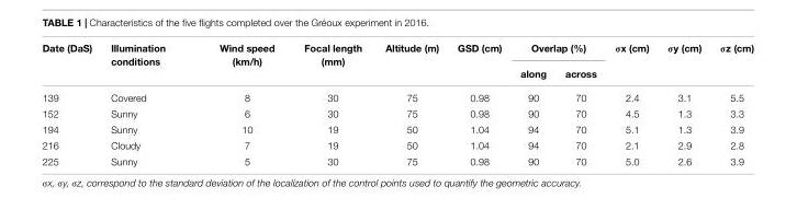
<table><thead><tr><td rowspan="2">Date (DaS)</td><td rowspan="2">Illumination conditions</td><td rowspan="2">Wind speed (km/h)</td><td rowspan="2">Focal length (mm)</td><td rowspan="2">Altitude (m)</td><td rowspan="2">GSD (cm)</td><td colspan="2">Overlap (%)</td><td rowspan="2">σx (cm)</td><td rowspan="2">σy (cm)</td><td rowspan="2">σz (cm)</td></tr><tr><td>along</td><td>across</td></tr></thead><tbody><tr><td>139</td><td>Covered</td><td>8</td><td>30</td><td>75</td><td>0.98</td><td>90</td><td>70</td><td>2.4</td><td>3.1</td><td>5.5</td></tr><tr><td>152</td><td>Sunny</td><td>6</td><td>30</td><td>75</td><td>0.98</td><td>90</td><td>70</td><td>4.5</td><td>1.3</td><td>3.3</td></tr><tr><td>194</td><td>Sunny</td><td>10</td><td>19</td><td>50</td><td>1.04</td><td>94</td><td>70</td><td>5.1</td><td>1.3</td><td>3.9</td></tr><tr><td>216</td><td>Cloudy</td><td>7</td><td>19</td><td>50</td><td>1.04</td><td>94</td><td>70</td><td>2.1</td><td>2.9</td><td>2.8</td></tr><tr><td>225</td><td>Sunny</td><td>5</td><td>30</td><td>75</td><td>0.98</td><td>90</td><td>70</td><td>5.0</td><td>2.6</td><td>3.9</td></tr></tbody></table>